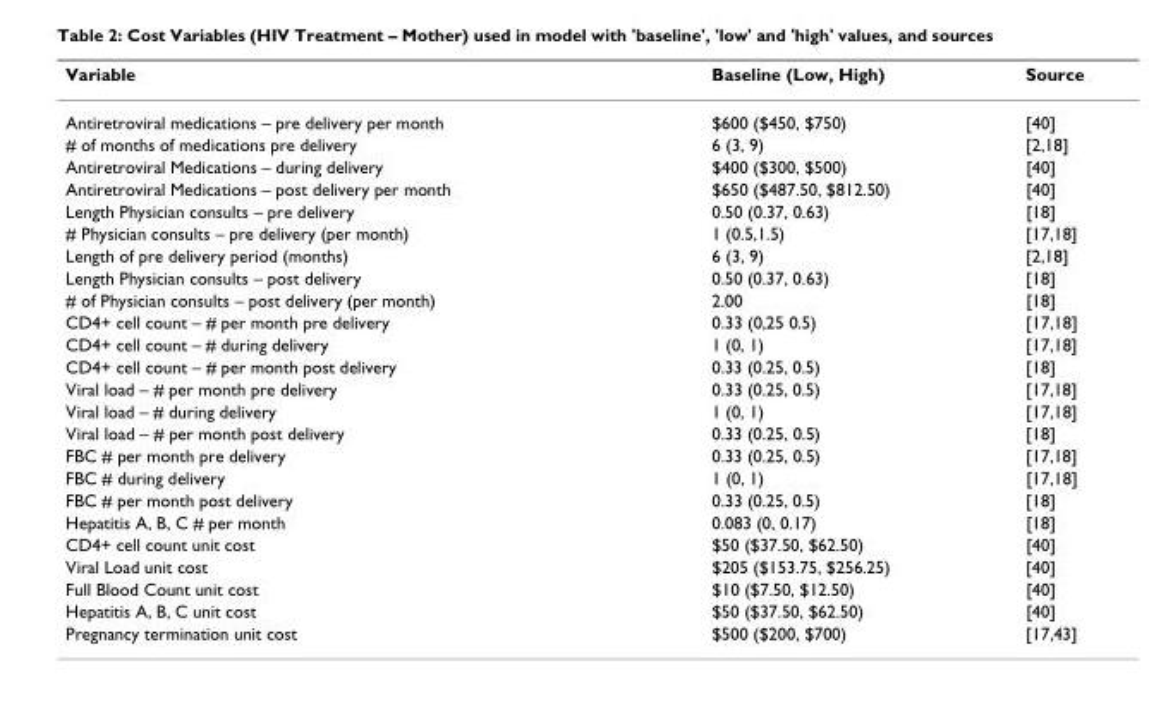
<table><thead><tr><td>Variable</td><td>Baseline (Low, High)</td><td>Source</td></tr></thead><tbody><tr><td>Antiretroviral medications – pre delivery per month</td><td>$600 ($450, $750)</td><td>[40]</td></tr><tr><td># of months of medications pre delivery</td><td>6 (3, 9)</td><td>[2,18]</td></tr><tr><td>Antiretroviral Medications – during delivery</td><td>$400 ($300, $500)</td><td>[40]</td></tr><tr><td>Antiretroviral Medications – post delivery per month</td><td>$650 ($487.50, $812.50)</td><td>[40]</td></tr><tr><td>Length Physician consults – pre delivery</td><td>0.50 (0.37, 0.63)</td><td>[18]</td></tr><tr><td># Physician consults – pre delivery (per month)</td><td>1 (0.5,1.5)</td><td>[17,18]</td></tr><tr><td>Length of pre delivery period (months)</td><td>6 (3, 9)</td><td>[2,18]</td></tr><tr><td>Length Physician consults – post delivery</td><td>0.50 (0.37, 0.63)</td><td>[18]</td></tr><tr><td># of Physician consults – post delivery (per month)</td><td>2.00</td><td>[18]</td></tr><tr><td>CD4+ cell count – # per month pre delivery</td><td>0.33 (0,25 0.5)</td><td>[17,18]</td></tr><tr><td>CD4+ cell count – # during delivery</td><td>1 (0, 1)</td><td>[17,18]</td></tr><tr><td>CD4+ cell count – # per month post delivery</td><td>0.33 (0.25, 0.5)</td><td>[18]</td></tr><tr><td>Viral load – # per month pre delivery</td><td>0.33 (0.25, 0.5)</td><td>[17,18]</td></tr><tr><td>Viral load – # during delivery</td><td>1 (0, 1)</td><td>[17,18]</td></tr><tr><td>Viral load – # per month post delivery</td><td>0.33 (0.25, 0.5)</td><td>[18]</td></tr><tr><td>FBC # per month pre delivery</td><td>0.33 (0.25, 0.5)</td><td>[17,18]</td></tr><tr><td>FBC # during delivery</td><td>1 (0, 1)</td><td>[17,18]</td></tr><tr><td>FBC # per month post delivery</td><td>0.33 (0.25, 0.5)</td><td>[18]</td></tr><tr><td>Hepatitis A, B, C # per month</td><td>0.083 (0, 0.17)</td><td>[18]</td></tr><tr><td>CD4+ cell count unit cost</td><td>$50 ($37.50, $62.50)</td><td>[40]</td></tr><tr><td>Viral Load unit cost</td><td>$205 ($153.75, $256.25)</td><td>[40]</td></tr><tr><td>Full Blood Count unit cost</td><td>$10 ($7.50, $12.50)</td><td>[40]</td></tr><tr><td>Hepatitis A, B, C unit cost</td><td>$50 ($37.50, $62.50)</td><td>[40]</td></tr><tr><td>Pregnancy termination unit cost</td><td>$500 ($200, $700)</td><td>[17,43]</td></tr></tbody></table>